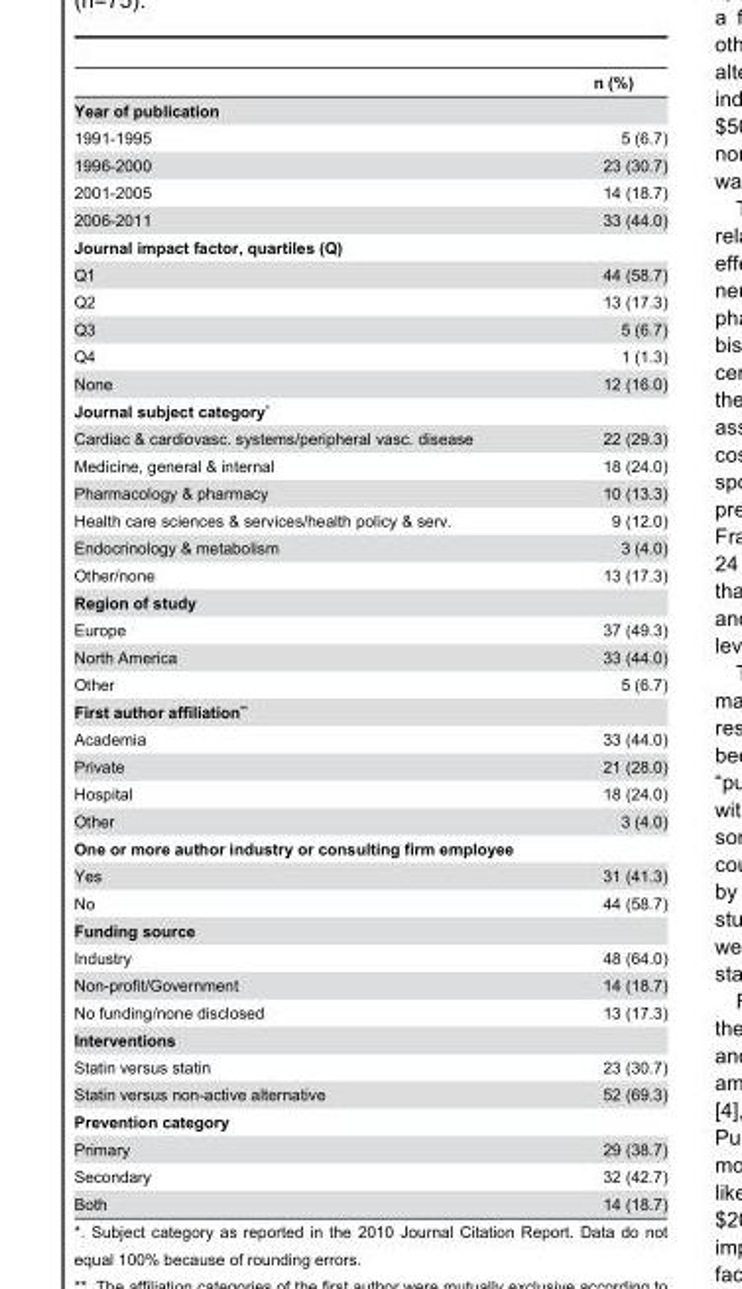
<table><thead><tr><td></td><td>n (%)</td></tr></thead><tbody><tr><td colspan="2">Year of publication</td></tr><tr><td>1991-1995</td><td>5 (6.7)</td></tr><tr><td>1996-2000</td><td>23 (30.7)</td></tr><tr><td>2001-2005</td><td>14 (18.7)</td></tr><tr><td>2006-2011</td><td>33 (44.0)</td></tr><tr><td colspan="2">Journal impact factor, quartiles (Q)</td></tr><tr><td>Q1</td><td>44 (58.7)</td></tr><tr><td>Q2</td><td>13 (17.3)</td></tr><tr><td>Q3</td><td>5 (6.7)</td></tr><tr><td>Q4</td><td>1 (1.3)</td></tr><tr><td>None</td><td>12 (16.0)</td></tr><tr><td colspan="2">Journal subject category*</td></tr><tr><td>Cardiac &amp; cardiovasc. systems/peripheral vasc. disease</td><td>22 (29.3)</td></tr><tr><td>Medicine, general &amp; internal</td><td>18 (24.0)</td></tr><tr><td>Pharmacology &amp; pharmacy</td><td>10 (13.3)</td></tr><tr><td>Health care sciences &amp; services/health policy &amp; serv.</td><td>9 (12.0)</td></tr><tr><td>Endocrinology &amp; metabolism</td><td>3 (4.0)</td></tr><tr><td>Other/none</td><td>13 (17.3)</td></tr><tr><td colspan="2">Region of study</td></tr><tr><td>Europe</td><td>37 (49.3)</td></tr><tr><td>North America</td><td>33 (44.0)</td></tr><tr><td>Other</td><td>5 (6.7)</td></tr><tr><td colspan="2">First author affiliation**</td></tr><tr><td>Academia</td><td>33 (44.0)</td></tr><tr><td>Private</td><td>21 (28.0)</td></tr><tr><td>Hospital</td><td>18 (24.0)</td></tr><tr><td>Other</td><td>3 (4.0)</td></tr><tr><td colspan="2">One or more author industry or consulting firm employee</td></tr><tr><td>Yes</td><td>31 (41.3)</td></tr><tr><td>No</td><td>44 (58.7)</td></tr><tr><td colspan="2">Funding source</td></tr><tr><td>Industry</td><td>48 (64.0)</td></tr><tr><td>Non-profit/Government</td><td>14 (18.7)</td></tr><tr><td>No funding/none disclosed</td><td>13 (17.3)</td></tr><tr><td colspan="2">Interventions</td></tr><tr><td>Statin versus statin</td><td>23 (30.7)</td></tr><tr><td>Statin versus non-active alternative</td><td>52 (69.3)</td></tr><tr><td colspan="2">Prevention category</td></tr><tr><td>Primary</td><td>29 (38.7)</td></tr><tr><td>Secondary</td><td>32 (42.7)</td></tr><tr><td>Both</td><td>14 (18.7)</td></tr></tbody></table>